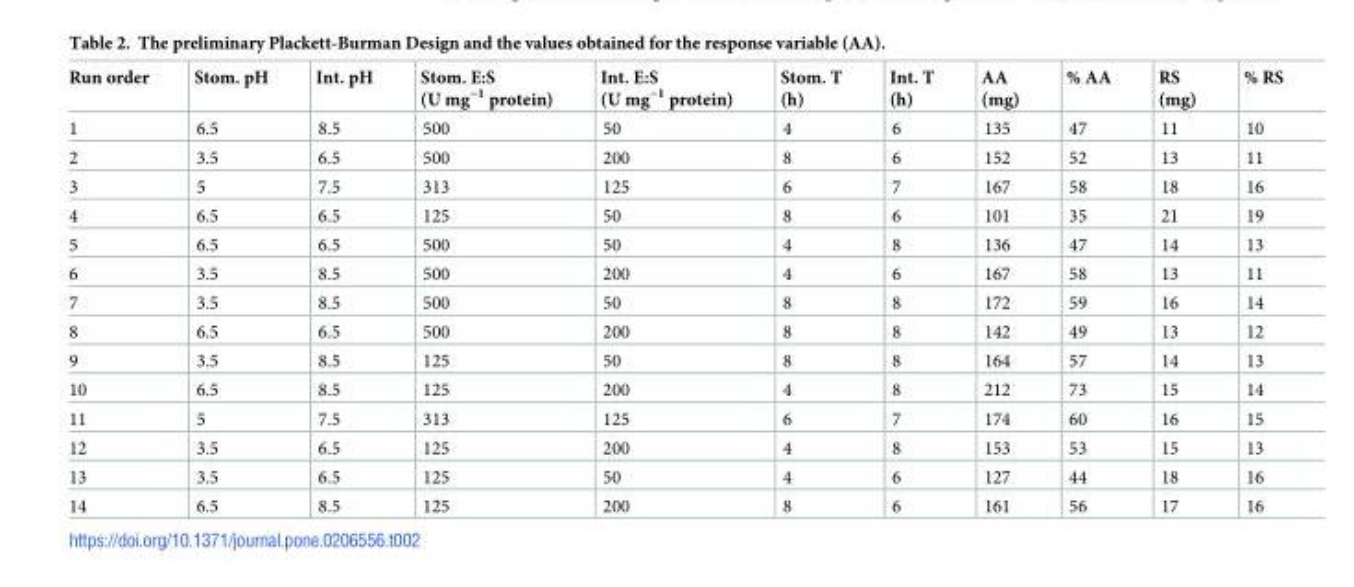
<table><thead><tr><td>Run order</td><td>Stom. pH</td><td>Int. pH</td><td>Stom. E:S (U mg<sup>−1</sup> protein)</td><td>Int. E:S (U mg<sup>−1</sup> protein)</td><td>Stom. T (h)</td><td>Int. T (h)</td><td>AA (mg)</td><td>% AA</td><td>RS (mg)</td><td>% RS</td></tr></thead><tbody><tr><td>1</td><td>6.5</td><td>8.5</td><td>500</td><td>50</td><td>4</td><td>6</td><td>135</td><td>47</td><td>11</td><td>10</td></tr><tr><td>2</td><td>3.5</td><td>6.5</td><td>500</td><td>200</td><td>8</td><td>6</td><td>152</td><td>52</td><td>13</td><td>11</td></tr><tr><td>3</td><td>5</td><td>7.5</td><td>313</td><td>125</td><td>6</td><td>7</td><td>167</td><td>58</td><td>18</td><td>16</td></tr><tr><td>4</td><td>6.5</td><td>6.5</td><td>125</td><td>50</td><td>8</td><td>6</td><td>101</td><td>35</td><td>21</td><td>19</td></tr><tr><td>5</td><td>6.5</td><td>6.5</td><td>500</td><td>50</td><td>4</td><td>8</td><td>136</td><td>47</td><td>14</td><td>13</td></tr><tr><td>6</td><td>3.5</td><td>8.5</td><td>500</td><td>200</td><td>4</td><td>6</td><td>167</td><td>58</td><td>13</td><td>11</td></tr><tr><td>7</td><td>3.5</td><td>8.5</td><td>500</td><td>50</td><td>8</td><td>8</td><td>172</td><td>59</td><td>16</td><td>14</td></tr><tr><td>8</td><td>6.5</td><td>6.5</td><td>500</td><td>200</td><td>8</td><td>8</td><td>142</td><td>49</td><td>13</td><td>12</td></tr><tr><td>9</td><td>3.5</td><td>8.5</td><td>125</td><td>50</td><td>8</td><td>8</td><td>164</td><td>57</td><td>14</td><td>13</td></tr><tr><td>10</td><td>6.5</td><td>8.5</td><td>125</td><td>200</td><td>4</td><td>8</td><td>212</td><td>73</td><td>15</td><td>14</td></tr><tr><td>11</td><td>5</td><td>7.5</td><td>313</td><td>125</td><td>6</td><td>7</td><td>174</td><td>60</td><td>16</td><td>15</td></tr><tr><td>12</td><td>3.5</td><td>6.5</td><td>125</td><td>200</td><td>4</td><td>8</td><td>153</td><td>53</td><td>15</td><td>13</td></tr><tr><td>13</td><td>3.5</td><td>6.5</td><td>125</td><td>50</td><td>4</td><td>6</td><td>127</td><td>44</td><td>18</td><td>16</td></tr><tr><td>14</td><td>6.5</td><td>8.5</td><td>125</td><td>200</td><td>8</td><td>6</td><td>161</td><td>56</td><td>17</td><td>16</td></tr></tbody></table>